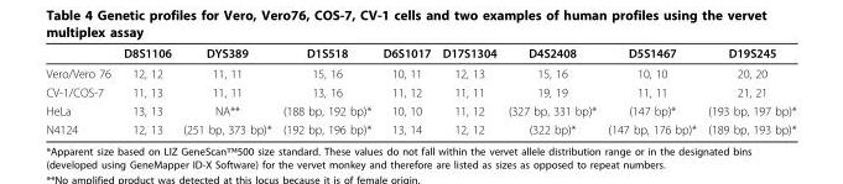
<table><thead><tr><td></td><td>D8S1106</td><td>DYS389</td><td>D1S518</td><td>D6S1017</td><td>D17S1304</td><td>D4S2408</td><td>D5S1467</td><td>D19S245</td></tr></thead><tbody><tr><td>Vero/Vero 76</td><td>12, 12</td><td>11, 11</td><td>15, 16</td><td>10, 11</td><td>12, 13</td><td>15, 16</td><td>10, 10</td><td>20, 20</td></tr><tr><td>CV-1/COS-7</td><td>11, 13</td><td>11, 11</td><td>13, 16</td><td>11, 12</td><td>11, 11</td><td>19, 19</td><td>11, 11</td><td>21, 21</td></tr><tr><td>HeLa</td><td>13, 13</td><td>NA**</td><td>(188 bp, 192 bp)*</td><td>10, 10</td><td>11, 12</td><td>(327 bp, 331 bp)*</td><td>(147 bp)*</td><td>(193 bp, 197 bp)*</td></tr><tr><td>N4124</td><td>12, 13</td><td>(251 bp, 373 bp)*</td><td>(192 bp, 196 bp)*</td><td>13, 14</td><td>12, 12</td><td>(322 bp)*</td><td>(147 bp, 176 bp)*</td><td>(189 bp, 193 bp)*</td></tr></tbody></table>